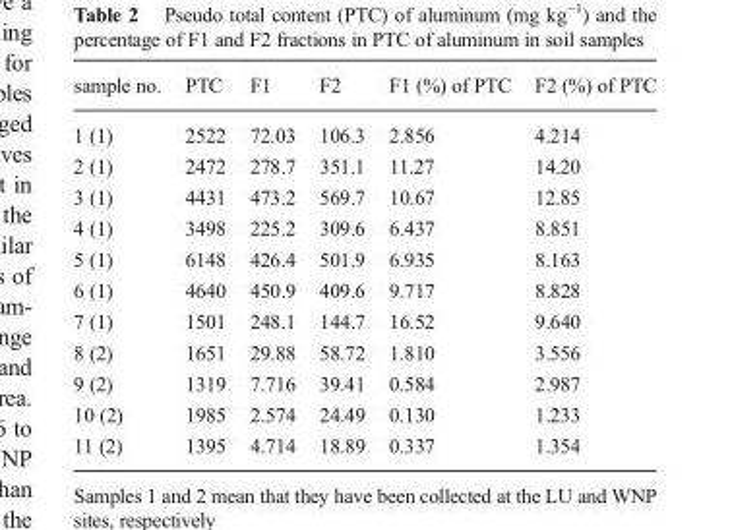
<table><thead><tr><td>sample no.</td><td>PTC</td><td>F1</td><td>F2</td><td>F1 (%) of PTC</td><td>F2 (%) of PTC</td></tr></thead><tbody><tr><td>1 (1)</td><td>2522</td><td>72.03</td><td>106.3</td><td>2.856</td><td>4.214</td></tr><tr><td>2 (1)</td><td>2472</td><td>278.7</td><td>351.1</td><td>11.27</td><td>14.20</td></tr><tr><td>3 (1)</td><td>4431</td><td>473.2</td><td>569.7</td><td>10.67</td><td>12.85</td></tr><tr><td>4 (1)</td><td>3498</td><td>225.2</td><td>309.6</td><td>6.437</td><td>8.851</td></tr><tr><td>5 (1)</td><td>6148</td><td>426.4</td><td>501.9</td><td>6.935</td><td>8.163</td></tr><tr><td>6 (1)</td><td>4640</td><td>450.9</td><td>409.6</td><td>9.717</td><td>8.828</td></tr><tr><td>7 (1)</td><td>1501</td><td>248.1</td><td>144.7</td><td>16.52</td><td>9.640</td></tr><tr><td>8 (2)</td><td>1651</td><td>29.88</td><td>58.72</td><td>1.810</td><td>3.556</td></tr><tr><td>9 (2)</td><td>1319</td><td>7.716</td><td>39.41</td><td>0.584</td><td>2.987</td></tr><tr><td>10 (2)</td><td>1985</td><td>2.574</td><td>24.49</td><td>0.130</td><td>1.233</td></tr><tr><td>11 (2)</td><td>1395</td><td>4.714</td><td>18.89</td><td>0.337</td><td>1.354</td></tr></tbody></table>